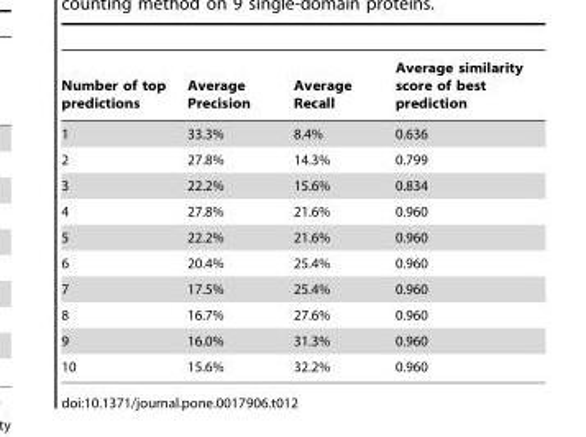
<table><thead><tr><td>Number of top predictions</td><td>Average Precision</td><td>Average Recall</td><td>Average similarity score of best prediction</td></tr></thead><tbody><tr><td>1</td><td>33.3%</td><td>8.4%</td><td>0.636</td></tr><tr><td>2</td><td>27.8%</td><td>14.3%</td><td>0.799</td></tr><tr><td>3</td><td>22.2%</td><td>15.6%</td><td>0.834</td></tr><tr><td>4</td><td>27.8%</td><td>21.6%</td><td>0.960</td></tr><tr><td>5</td><td>22.2%</td><td>21.6%</td><td>0.960</td></tr><tr><td>6</td><td>20.4%</td><td>25.4%</td><td>0.960</td></tr><tr><td>7</td><td>17.5%</td><td>25.4%</td><td>0.960</td></tr><tr><td>8</td><td>16.7%</td><td>27.6%</td><td>0.960</td></tr><tr><td>9</td><td>16.0%</td><td>31.3%</td><td>0.960</td></tr><tr><td>10</td><td>15.6%</td><td>32.2%</td><td>0.960</td></tr></tbody></table>